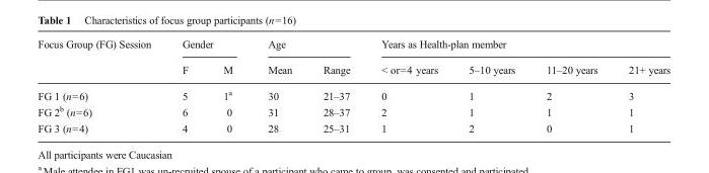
<table><thead><tr><td rowspan="2">Focus Group (FG) Session</td><td colspan="2">Gender</td><td colspan="2">Age</td><td colspan="4">Years as Health-plan member</td></tr><tr><td>F</td><td>M</td><td>Mean</td><td>Range</td><td>&lt; or=4 years</td><td>5–10 years</td><td>11–20 years</td><td>21+ years</td></tr></thead><tbody><tr><td>FG 1 (n=6)</td><td>5</td><td>1<sup>a</sup></td><td>30</td><td>21–37</td><td>0</td><td>1</td><td>2</td><td>3</td></tr><tr><td>FG 2<sup>b</sup> (n=6)</td><td>6</td><td>0</td><td>31</td><td>28–37</td><td>2</td><td>1</td><td>1</td><td>1</td></tr><tr><td>FG 3 (n=4)</td><td>4</td><td>0</td><td>28</td><td>25–31</td><td>1</td><td>2</td><td>0</td><td>1</td></tr></tbody></table>